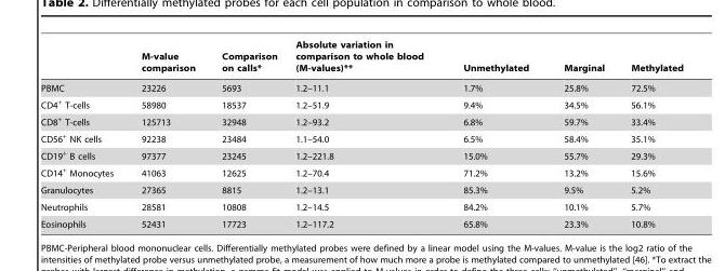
<table><thead><tr><td></td><td>M-value comparison</td><td>Comparison on calls*</td><td>Absolute variation in comparison to whole blood (M-values)**</td><td>Unmethylated</td><td>Marginal</td><td>Methylated</td></tr></thead><tbody><tr><td>PBMC</td><td>23226</td><td>5693</td><td>1.2–11.1</td><td>1.7%</td><td>25.8%</td><td>72.5%</td></tr><tr><td>CD4<sup>+</sup> T-cells</td><td>58980</td><td>18537</td><td>1.2–51.9</td><td>9.4%</td><td>34.5%</td><td>56.1%</td></tr><tr><td>CD8<sup>+</sup> T-cells</td><td>125713</td><td>32948</td><td>1.2–93.2</td><td>6.8%</td><td>59.7%</td><td>33.4%</td></tr><tr><td>CD56<sup>+</sup> NK cells</td><td>92238</td><td>23484</td><td>1.1–54.0</td><td>6.5%</td><td>58.4%</td><td>35.1%</td></tr><tr><td>CD19<sup>+</sup> B cells</td><td>97377</td><td>23245</td><td>1.2–221.8</td><td>15.0%</td><td>55.7%</td><td>29.3%</td></tr><tr><td>CD14<sup>+</sup> Monocytes</td><td>41063</td><td>12625</td><td>1.2–70.4</td><td>71.2%</td><td>13.2%</td><td>15.6%</td></tr><tr><td>Granulocytes</td><td>27365</td><td>8815</td><td>1.2–13.1</td><td>85.3%</td><td>9.5%</td><td>5.2%</td></tr><tr><td>Neutrophils</td><td>28581</td><td>10808</td><td>1.2–14.5</td><td>84.2%</td><td>10.1%</td><td>5.7%</td></tr><tr><td>Eosinophils</td><td>52431</td><td>17723</td><td>1.2–117.2</td><td>65.8%</td><td>23.3%</td><td>10.8%</td></tr></tbody></table>